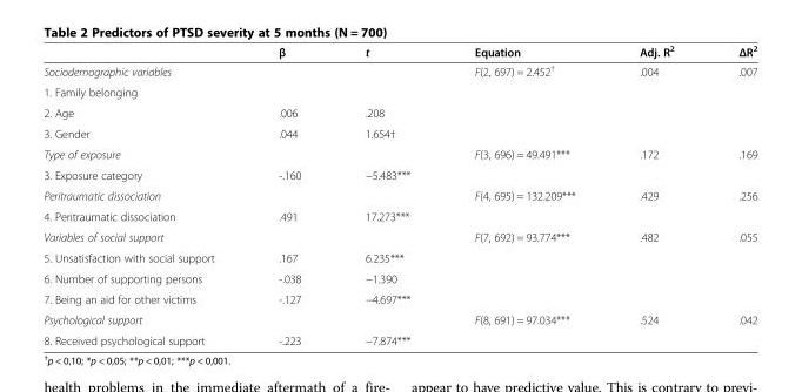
<table><thead><tr><td></td><td>β</td><td>t</td><td>Equation</td><td>Adj. R<sup>2</sup></td><td>ΔR<sup>2</sup></td></tr></thead><tbody><tr><td>Sociodemographic variables</td><td></td><td></td><td>F(2, 697) = 2.452<sup>†</sup></td><td>.004</td><td>.007</td></tr><tr><td colspan="6">1. Family belonging</td></tr><tr><td>2. Age</td><td>.006</td><td>.208</td><td></td><td></td><td></td></tr><tr><td>3. Gender</td><td>.044</td><td>1.654†</td><td></td><td></td><td></td></tr><tr><td>Type of exposure</td><td></td><td></td><td>F(3, 696) = 49.491***</td><td>.172</td><td>.169</td></tr><tr><td>3. Exposure category</td><td>-.160</td><td>−5.483***</td><td></td><td></td><td></td></tr><tr><td>Peritraumatic dissociation</td><td></td><td></td><td>F(4, 695) = 132.209***</td><td>.429</td><td>.256</td></tr><tr><td>4. Peritraumatic dissociation</td><td>.491</td><td>17.273***</td><td></td><td></td><td></td></tr><tr><td>Variables of social support</td><td></td><td></td><td>F(7, 692) = 93.774***</td><td>.482</td><td>.055</td></tr><tr><td>5. Unsatisfaction with social support</td><td>.167</td><td>6.235***</td><td></td><td></td><td></td></tr><tr><td>6. Number of supporting persons</td><td>-.038</td><td>−1.390</td><td></td><td></td><td></td></tr><tr><td>7. Being an aid for other victims</td><td>-.127</td><td>−4.697***</td><td></td><td></td><td></td></tr><tr><td>Psychological support</td><td></td><td></td><td>F(8, 691) = 97.034***</td><td>.524</td><td>.042</td></tr><tr><td>8. Received psychological support</td><td>-.223</td><td>−7.874***</td><td></td><td></td><td></td></tr></tbody></table>